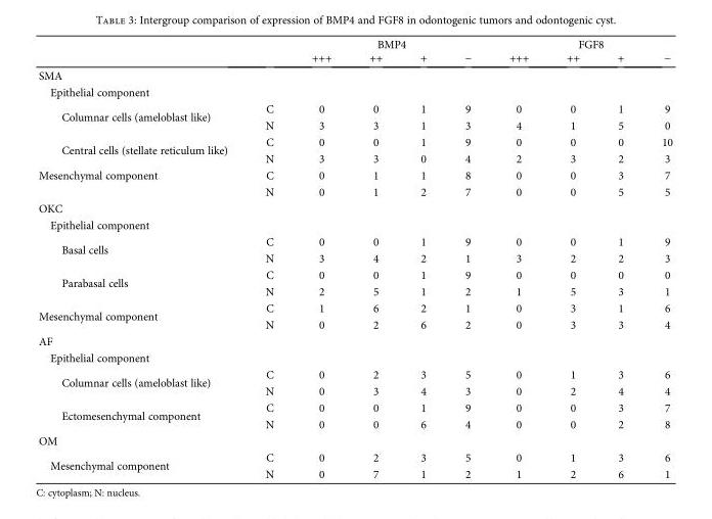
<table><thead><tr><td rowspan="2"></td><td rowspan="2"></td><td colspan="4">BMP4</td><td colspan="4">FGF8</td></tr><tr><td>+++</td><td>++</td><td>+</td><td>−</td><td>+++</td><td>++</td><td>+</td><td>−</td></tr></thead><tbody><tr><td colspan="10">SMA</td></tr><tr><td colspan="10">Epithelial component</td></tr><tr><td rowspan="2">Columnar cells (ameloblast like)</td><td>C</td><td>0</td><td>0</td><td>1</td><td>9</td><td>0</td><td>0</td><td>1</td><td>9</td></tr><tr><td>N</td><td>3</td><td>3</td><td>1</td><td>3</td><td>4</td><td>1</td><td>5</td><td>0</td></tr><tr><td rowspan="2">Central cells (stellate reticulum like)</td><td>C</td><td>0</td><td>0</td><td>1</td><td>9</td><td>0</td><td>0</td><td>0</td><td>10</td></tr><tr><td>N</td><td>3</td><td>3</td><td>0</td><td>4</td><td>2</td><td>3</td><td>2</td><td>3</td></tr><tr><td rowspan="2">Mesenchymal component</td><td>C</td><td>0</td><td>1</td><td>1</td><td>8</td><td>0</td><td>0</td><td>3</td><td>7</td></tr><tr><td>N</td><td>0</td><td>1</td><td>2</td><td>7</td><td>0</td><td>0</td><td>5</td><td>5</td></tr><tr><td colspan="10">OKC</td></tr><tr><td colspan="10">Epithelial component</td></tr><tr><td rowspan="2">Basal cells</td><td>C</td><td>0</td><td>0</td><td>1</td><td>9</td><td>0</td><td>0</td><td>1</td><td>9</td></tr><tr><td>N</td><td>3</td><td>4</td><td>2</td><td>1</td><td>3</td><td>2</td><td>2</td><td>3</td></tr><tr><td rowspan="2">Parabasal cells</td><td>C</td><td>0</td><td>0</td><td>1</td><td>9</td><td>0</td><td>0</td><td>0</td><td>0</td></tr><tr><td>N</td><td>2</td><td>5</td><td>1</td><td>2</td><td>1</td><td>5</td><td>3</td><td>1</td></tr><tr><td rowspan="2">Mesenchymal component</td><td>C</td><td>1</td><td>6</td><td>2</td><td>1</td><td>0</td><td>3</td><td>1</td><td>6</td></tr><tr><td>N</td><td>0</td><td>2</td><td>6</td><td>2</td><td>0</td><td>3</td><td>3</td><td>4</td></tr><tr><td colspan="10">AF</td></tr><tr><td colspan="10">Epithelial component</td></tr><tr><td rowspan="2">Columnar cells (ameloblast like)</td><td>C</td><td>0</td><td>2</td><td>3</td><td>5</td><td>0</td><td>1</td><td>3</td><td>6</td></tr><tr><td>N</td><td>0</td><td>3</td><td>4</td><td>3</td><td>0</td><td>2</td><td>4</td><td>4</td></tr><tr><td rowspan="2">Ectomesenchymal component</td><td>C</td><td>0</td><td>0</td><td>1</td><td>9</td><td>0</td><td>0</td><td>3</td><td>7</td></tr><tr><td>N</td><td>0</td><td>0</td><td>6</td><td>4</td><td>0</td><td>0</td><td>2</td><td>8</td></tr><tr><td colspan="10">OM</td></tr><tr><td rowspan="2">Mesenchymal component</td><td>C</td><td>0</td><td>2</td><td>3</td><td>5</td><td>0</td><td>1</td><td>3</td><td>6</td></tr><tr><td>N</td><td>0</td><td>7</td><td>1</td><td>2</td><td>1</td><td>2</td><td>6</td><td>1</td></tr></tbody></table>